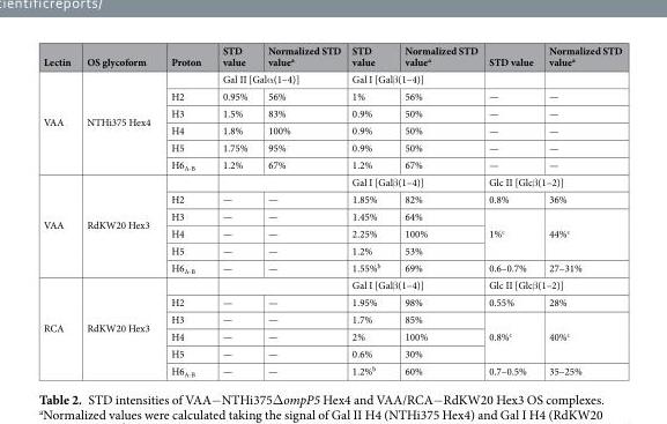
<table><thead><tr><td>Lectin</td><td>OS glycoform</td><td>Proton</td><td>STD value</td><td>Normalized STD value<sup>a</sup></td><td>STD value</td><td>Normalized STD value<sup>a</sup></td><td>STD value</td><td>Normalized STD value<sup>a</sup></td></tr></thead><tbody><tr><td rowspan="6">VAA</td><td rowspan="6">NTHi375 Hex4</td><td></td><td colspan="2">Gal II [Galα(1–4)]</td><td colspan="2">Gal I [Galβ(1–4)]</td><td></td><td></td></tr><tr><td>H2</td><td>0.95%</td><td>56%</td><td>1%</td><td>56%</td><td>—</td><td>—</td></tr><tr><td>H3</td><td>1.5%</td><td>83%</td><td>0.9%</td><td>50%</td><td>—</td><td>—</td></tr><tr><td>H4</td><td>1.8%</td><td>100%</td><td>0.9%</td><td>50%</td><td>—</td><td>—</td></tr><tr><td>H5</td><td>1.75%</td><td>95%</td><td>0.9%</td><td>50%</td><td>—</td><td>—</td></tr><tr><td>H6<sub>A-B</sub></td><td>1.2%</td><td>67%</td><td>1.2%</td><td>67%</td><td>—</td><td>—</td></tr><tr><td rowspan="6">VAA</td><td rowspan="6">RdKW20 Hex3</td><td></td><td colspan="2"></td><td colspan="2">Gal I [Galβ(1–4)]</td><td colspan="2">Glc II [Glcβ(1–2)]</td></tr><tr><td>H2</td><td>—</td><td>—</td><td>1.85%</td><td>82%</td><td>0.8%</td><td>36%</td></tr><tr><td>H3</td><td>—</td><td>—</td><td>1.45%</td><td>64%</td><td rowspan="3">1%<sup>c</sup></td><td rowspan="3">44%<sup>c</sup></td></tr><tr><td>H4</td><td>—</td><td>—</td><td>2.25%</td><td>100%</td></tr><tr><td>H5</td><td>—</td><td>—</td><td>1.2%</td><td>53%</td></tr><tr><td>H6<sub>A-B</sub></td><td>—</td><td>—</td><td>1.55%<sup>b</sup></td><td>69%</td><td>0.6–0.7%</td><td>27–31%</td></tr><tr><td rowspan="6">RCA</td><td rowspan="6">RdKW20 Hex3</td><td></td><td colspan="2"></td><td colspan="2">Gal I [Galβ(1–4)]</td><td colspan="2">Glc II [Glcβ(1–2)]</td></tr><tr><td>H2</td><td>—</td><td>—</td><td>1.95%</td><td>98%</td><td>0.55%</td><td>28%</td></tr><tr><td>H3</td><td>—</td><td>—</td><td>1.7%</td><td>85%</td><td rowspan="3">0.8%<sup>c</sup></td><td rowspan="3">40%<sup>c</sup></td></tr><tr><td>H4</td><td>—</td><td>—</td><td>2%</td><td>100%</td></tr><tr><td>H5</td><td>—</td><td>—</td><td>0.6%</td><td>30%</td></tr><tr><td>H6<sub>A-B</sub></td><td>—</td><td>—</td><td>1.2%<sup>b</sup></td><td>60%</td><td>0.7–0.5%</td><td>35–25%</td></tr></tbody></table>